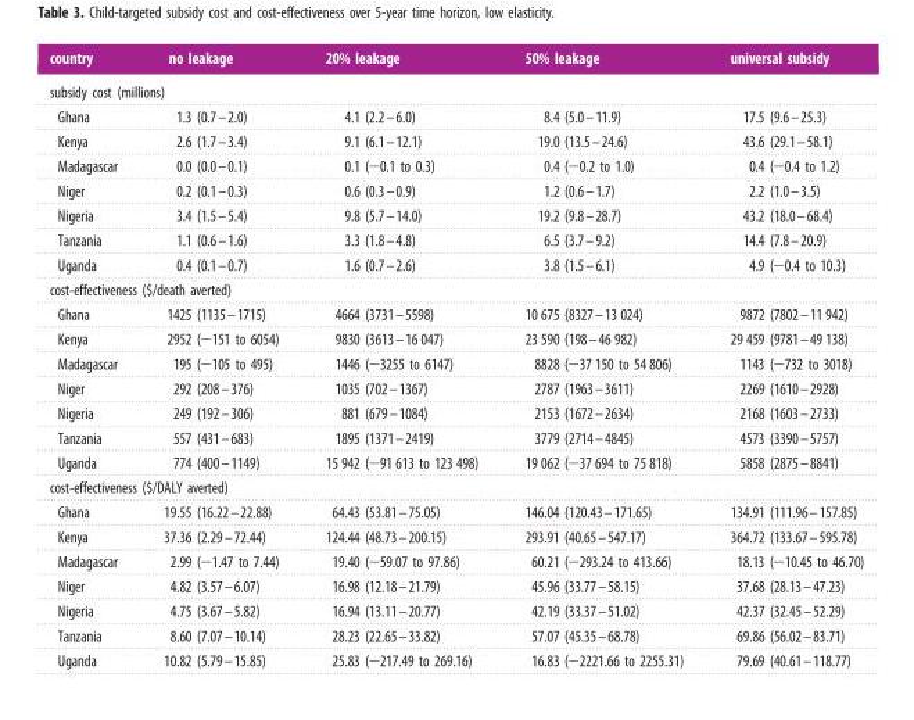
<table><thead><tr><td>country</td><td>no leakage</td><td>20% leakage</td><td>50% leakage</td><td>universal subsidy</td></tr></thead><tbody><tr><td colspan="5">subsidy cost (millions)</td></tr><tr><td>Ghana</td><td>1.3 (0.7–2.0)</td><td>4.1 (2.2–6.0)</td><td>8.4 (5.0–11.9)</td><td>17.5 (9.6–25.3)</td></tr><tr><td>Kenya</td><td>2.6 (1.7–3.4)</td><td>9.1 (6.1–12.1)</td><td>19.0 (13.5–24.6)</td><td>43.6 (29.1–58.1)</td></tr><tr><td>Madagascar</td><td>0.0 (0.0–0.1)</td><td>0.1 (−0.1 to 0.3)</td><td>0.4 (−0.2 to 1.0)</td><td>0.4 (−0.4 to 1.2)</td></tr><tr><td>Niger</td><td>0.2 (0.1–0.3)</td><td>0.6 (0.3–0.9)</td><td>1.2 (0.6–1.7)</td><td>2.2 (1.0–3.5)</td></tr><tr><td>Nigeria</td><td>3.4 (1.5–5.4)</td><td>9.8 (5.7–14.0)</td><td>19.2 (9.8–28.7)</td><td>43.2 (18.0–68.4)</td></tr><tr><td>Tanzania</td><td>1.1 (0.6–1.6)</td><td>3.3 (1.8–4.8)</td><td>6.5 (3.7–9.2)</td><td>14.4 (7.8–20.9)</td></tr><tr><td>Uganda</td><td>0.4 (0.1–0.7)</td><td>1.6 (0.7–2.6)</td><td>3.8 (1.5–6.1)</td><td>4.9 (−0.4 to 10.3)</td></tr><tr><td colspan="5">cost-effectiveness ($/death averted)</td></tr><tr><td>Ghana</td><td>1425 (1135–1715)</td><td>4664 (3731–5598)</td><td>10 675 (8327–13 024)</td><td>9872 (7802–11 942)</td></tr><tr><td>Kenya</td><td>2952 (−151 to 6054)</td><td>9830 (3613–16 047)</td><td>23 590 (198–46 982)</td><td>29 459 (9781–49 138)</td></tr><tr><td>Madagascar</td><td>195 (−105 to 495)</td><td>1446 (−3255 to 6147)</td><td>8828 (−37 150 to 54 806)</td><td>1143 (−732 to 3018)</td></tr><tr><td>Niger</td><td>292 (208–376)</td><td>1035 (702–1367)</td><td>2787 (1963–3611)</td><td>2269 (1610–2928)</td></tr><tr><td>Nigeria</td><td>249 (192–306)</td><td>881 (679–1084)</td><td>2153 (1672–2634)</td><td>2168 (1603–2733)</td></tr><tr><td>Tanzania</td><td>557 (431–683)</td><td>1895 (1371–2419)</td><td>3779 (2714–4845)</td><td>4573 (3390–5757)</td></tr><tr><td>Uganda</td><td>774 (400–1149)</td><td>15 942 (−91 613 to 123 498)</td><td>19 062 (−37 694 to 75 818)</td><td>5858 (2875–8841)</td></tr><tr><td colspan="5">cost-effectiveness ($/DALY averted)</td></tr><tr><td>Ghana</td><td>19.55 (16.22–22.88)</td><td>64.43 (53.81–75.05)</td><td>146.04 (120.43–171.65)</td><td>134.91 (111.96–157.85)</td></tr><tr><td>Kenya</td><td>37.36 (2.29–72.44)</td><td>124.44 (48.73–200.15)</td><td>293.91 (40.65–547.17)</td><td>364.72 (133.67–595.78)</td></tr><tr><td>Madagascar</td><td>2.99 (−1.47 to 7.44)</td><td>19.40 (−59.07 to 97.86)</td><td>60.21 (−293.24 to 413.66)</td><td>18.13 (−10.45 to 46.70)</td></tr><tr><td>Niger</td><td>4.82 (3.57–6.07)</td><td>16.98 (12.18–21.79)</td><td>45.96 (33.77–58.15)</td><td>37.68 (28.13–47.23)</td></tr><tr><td>Nigeria</td><td>4.75 (3.67–5.82)</td><td>16.94 (13.11–20.77)</td><td>42.19 (33.37–51.02)</td><td>42.37 (32.45–52.29)</td></tr><tr><td>Tanzania</td><td>8.60 (7.07–10.14)</td><td>28.23 (22.65–33.82)</td><td>57.07 (45.35–68.78)</td><td>69.86 (56.02–83.71)</td></tr><tr><td>Uganda</td><td>10.82 (5.79–15.85)</td><td>25.83 (−217.49 to 269.16)</td><td>16.83 (−2221.66 to 2255.31)</td><td>79.69 (40.61–118.77)</td></tr></tbody></table>